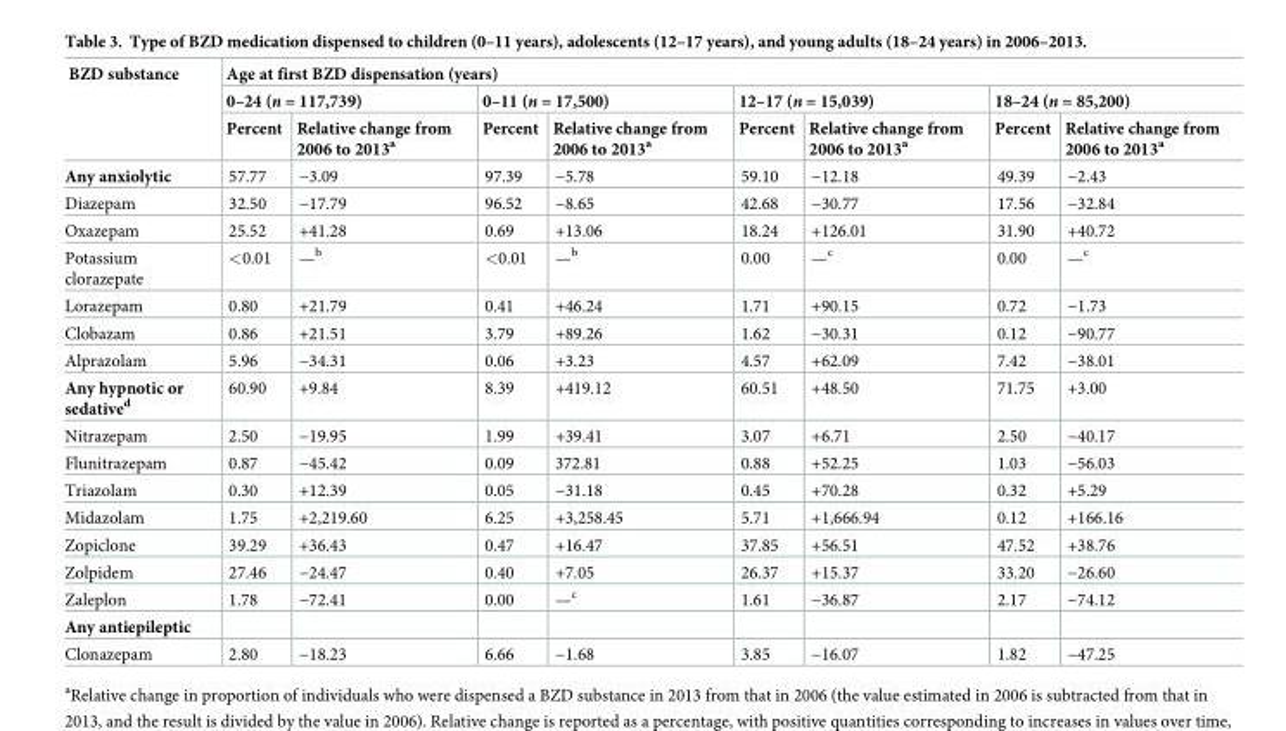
<table><thead><tr><td rowspan="3">BZD substance</td><td colspan="8">Age at first BZD dispensation (years)</td></tr><tr><td colspan="2">0–24 (n = 117,739)</td><td colspan="2">0–11 (n = 17,500)</td><td colspan="2">12–17 (n = 15,039)</td><td colspan="2">18–24 (n = 85,200)</td></tr><tr><td>Percent</td><td>Relative change from 2006 to 2013<sup>a</sup></td><td>Percent</td><td>Relative change from 2006 to 2013<sup>a</sup></td><td>Percent</td><td>Relative change from 2006 to 2013<sup>a</sup></td><td>Percent</td><td>Relative change from 2006 to 2013<sup>a</sup></td></tr></thead><tbody><tr><td>Any anxiolytic</td><td>57.77</td><td>−3.09</td><td>97.39</td><td>−5.78</td><td>59.10</td><td>−12.18</td><td>49.39</td><td>−2.43</td></tr><tr><td>Diazepam</td><td>32.50</td><td>−17.79</td><td>96.52</td><td>−8.65</td><td>42.68</td><td>−30.77</td><td>17.56</td><td>−32.84</td></tr><tr><td>Oxazepam</td><td>25.52</td><td>+41.28</td><td>0.69</td><td>+13.06</td><td>18.24</td><td>+126.01</td><td>31.90</td><td>+40.72</td></tr><tr><td>Potassium clorazepate</td><td>&lt;0.01</td><td>—<sup>b</sup></td><td>&lt;0.01</td><td>—<sup>b</sup></td><td>0.00</td><td>—<sup>c</sup></td><td>0.00</td><td>—<sup>c</sup></td></tr><tr><td>Lorazepam</td><td>0.80</td><td>+21.79</td><td>0.41</td><td>+46.24</td><td>1.71</td><td>+90.15</td><td>0.72</td><td>−1.73</td></tr><tr><td>Clobazam</td><td>0.86</td><td>+21.51</td><td>3.79</td><td>+89.26</td><td>1.62</td><td>−30.31</td><td>0.12</td><td>−90.77</td></tr><tr><td>Alprazolam</td><td>5.96</td><td>−34.31</td><td>0.06</td><td>+3.23</td><td>4.57</td><td>+62.09</td><td>7.42</td><td>−38.01</td></tr><tr><td>Any hypnotic or sedative<sup>d</sup></td><td>60.90</td><td>+9.84</td><td>8.39</td><td>+419.12</td><td>60.51</td><td>+48.50</td><td>71.75</td><td>+3.00</td></tr><tr><td>Nitrazepam</td><td>2.50</td><td>−19.95</td><td>1.99</td><td>+39.41</td><td>3.07</td><td>+6.71</td><td>2.50</td><td>−40.17</td></tr><tr><td>Flunitrazepam</td><td>0.87</td><td>−45.42</td><td>0.09</td><td>372.81</td><td>0.88</td><td>+52.25</td><td>1.03</td><td>−56.03</td></tr><tr><td>Triazolam</td><td>0.30</td><td>+12.39</td><td>0.05</td><td>−31.18</td><td>0.45</td><td>+70.28</td><td>0.32</td><td>+5.29</td></tr><tr><td>Midazolam</td><td>1.75</td><td>+2,219.60</td><td>6.25</td><td>+3,258.45</td><td>5.71</td><td>+1,666.94</td><td>0.12</td><td>+166.16</td></tr><tr><td>Zopiclone</td><td>39.29</td><td>+36.43</td><td>0.47</td><td>+16.47</td><td>37.85</td><td>+56.51</td><td>47.52</td><td>+38.76</td></tr><tr><td>Zolpidem</td><td>27.46</td><td>−24.47</td><td>0.40</td><td>+7.05</td><td>26.37</td><td>+15.37</td><td>33.20</td><td>−26.60</td></tr><tr><td>Zaleplon</td><td>1.78</td><td>−72.41</td><td>0.00</td><td>—<sup>c</sup></td><td>1.61</td><td>−36.87</td><td>2.17</td><td>−74.12</td></tr><tr><td colspan="9">Any antiepileptic</td></tr><tr><td>Clonazepam</td><td>2.80</td><td>−18.23</td><td>6.66</td><td>−1.68</td><td>3.85</td><td>−16.07</td><td>1.82</td><td>−47.25</td></tr></tbody></table>